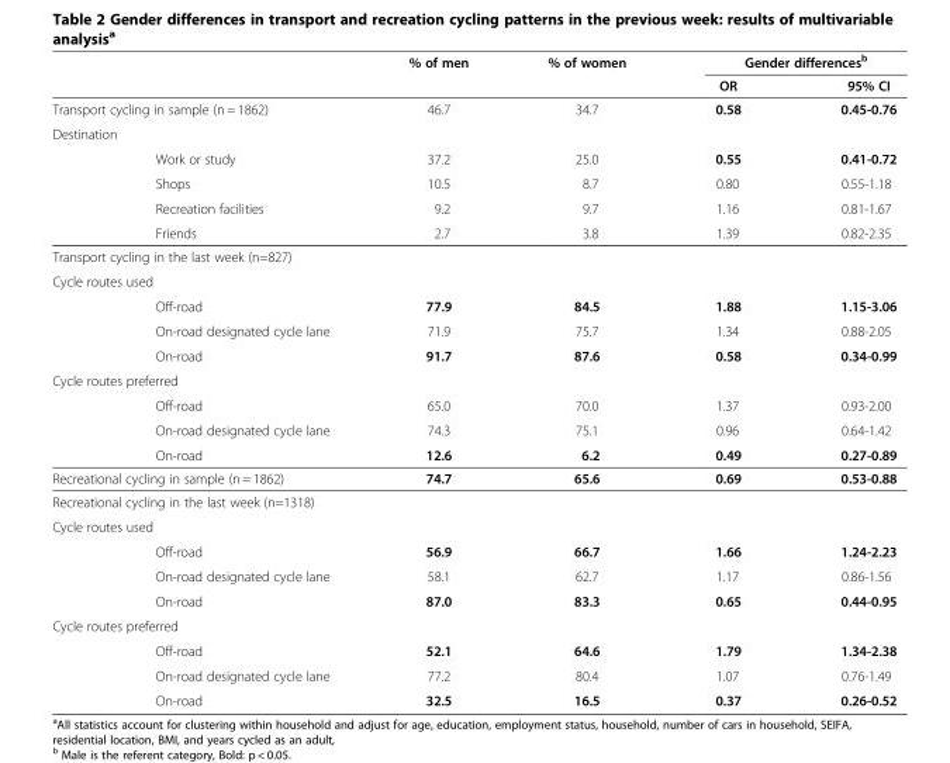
<table><thead><tr><td rowspan="2"></td><td rowspan="2">% of men</td><td rowspan="2">% of women</td><td colspan="2">Gender differences<sup>b</sup></td></tr><tr><td>OR</td><td>95% CI</td></tr></thead><tbody><tr><td>Transport cycling in sample (n = 1862)</td><td>46.7</td><td>34.7</td><td>0.58</td><td>0.45-0.76</td></tr><tr><td colspan="5">Destination</td></tr><tr><td>Work or study</td><td>37.2</td><td>25.0</td><td>0.55</td><td>0.41-0.72</td></tr><tr><td>Shops</td><td>10.5</td><td>8.7</td><td>0.80</td><td>0.55-1.18</td></tr><tr><td>Recreation facilities</td><td>9.2</td><td>9.7</td><td>1.16</td><td>0.81-1.67</td></tr><tr><td>Friends</td><td>2.7</td><td>3.8</td><td>1.39</td><td>0.82-2.35</td></tr><tr><td colspan="5">Transport cycling in the last week (n=827)</td></tr><tr><td colspan="5">Cycle routes used</td></tr><tr><td>Off-road</td><td>77.9</td><td>84.5</td><td>1.88</td><td>1.15-3.06</td></tr><tr><td>On-road designated cycle lane</td><td>71.9</td><td>75.7</td><td>1.34</td><td>0.88-2.05</td></tr><tr><td>On-road</td><td>91.7</td><td>87.6</td><td>0.58</td><td>0.34-0.99</td></tr><tr><td colspan="5">Cycle routes preferred</td></tr><tr><td>Off-road</td><td>65.0</td><td>70.0</td><td>1.37</td><td>0.93-2.00</td></tr><tr><td>On-road designated cycle lane</td><td>74.3</td><td>75.1</td><td>0.96</td><td>0.64-1.42</td></tr><tr><td>On-road</td><td>12.6</td><td>6.2</td><td>0.49</td><td>0.27-0.89</td></tr><tr><td>Recreational cycling in sample (n = 1862)</td><td>74.7</td><td>65.6</td><td>0.69</td><td>0.53-0.88</td></tr><tr><td colspan="5">Recreational cycling in the last week (n=1318)</td></tr><tr><td colspan="5">Cycle routes used</td></tr><tr><td>Off-road</td><td>56.9</td><td>66.7</td><td>1.66</td><td>1.24-2.23</td></tr><tr><td>On-road designated cycle lane</td><td>58.1</td><td>62.7</td><td>1.17</td><td>0.86-1.56</td></tr><tr><td>On-road</td><td>87.0</td><td>83.3</td><td>0.65</td><td>0.44-0.95</td></tr><tr><td colspan="5">Cycle routes preferred</td></tr><tr><td>Off-road</td><td>52.1</td><td>64.6</td><td>1.79</td><td>1.34-2.38</td></tr><tr><td>On-road designated cycle lane</td><td>77.2</td><td>80.4</td><td>1.07</td><td>0.76-1.49</td></tr><tr><td>On-road</td><td>32.5</td><td>16.5</td><td>0.37</td><td>0.26-0.52</td></tr></tbody></table>